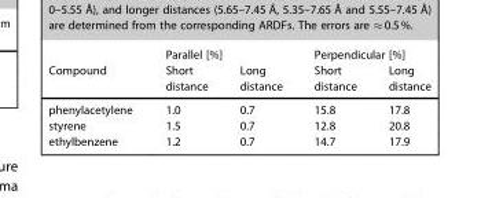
<table><thead><tr><td rowspan="2">Compound</td><td colspan="2">Parallel [%]</td><td colspan="2">Perpendicular [%]</td></tr><tr><td>Short distance</td><td>Long distance</td><td>Short distance</td><td>Long distance</td></tr></thead><tbody><tr><td>phenylacetylene</td><td>1.0</td><td>0.7</td><td>15.8</td><td>17.8</td></tr><tr><td>styrene</td><td>1.5</td><td>0.7</td><td>12.8</td><td>20.8</td></tr><tr><td>ethylbenzene</td><td>1.2</td><td>0.7</td><td>14.7</td><td>17.9</td></tr></tbody></table>